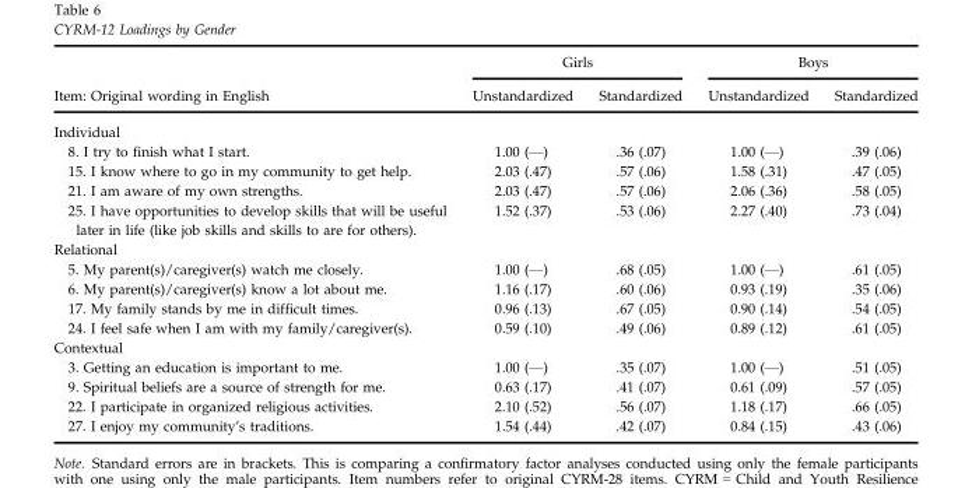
<table><thead><tr><td rowspan="2">Item: Original wording in English</td><td colspan="2">Girls</td><td colspan="2">Boys</td></tr><tr><td>Unstandardized</td><td>Standardized</td><td>Unstandardized</td><td>Standardized</td></tr></thead><tbody><tr><td colspan="5">Individual</td></tr><tr><td>8. I try to finish what I start.</td><td>1.00 (—)</td><td>.36 (.07)</td><td>1.00 (—)</td><td>.39 (.06)</td></tr><tr><td>15. I know where to go in my community to get help.</td><td>2.03 (.47)</td><td>.57 (.06)</td><td>1.58 (.31)</td><td>.47 (.05)</td></tr><tr><td>21. I am aware of my own strengths.</td><td>2.03 (.47)</td><td>.57 (.06)</td><td>2.06 (.36)</td><td>.58 (.05)</td></tr><tr><td>25. I have opportunities to develop skills that will be useful later in life (like job skills and skills to are for others).</td><td>1.52 (.37)</td><td>.53 (.06)</td><td>2.27 (.40)</td><td>.73 (.04)</td></tr><tr><td colspan="5">Relational</td></tr><tr><td>5. My parent(s)/caregiver(s) watch me closely.</td><td>1.00 (—)</td><td>.68 (.05)</td><td>1.00 (—)</td><td>.61 (.05)</td></tr><tr><td>6. My parent(s)/caregiver(s) know a lot about me.</td><td>1.16 (.17)</td><td>.60 (.06)</td><td>0.93 (.19)</td><td>.35 (.06)</td></tr><tr><td>17. My family stands by me in difficult times.</td><td>0.96 (.13)</td><td>.67 (.05)</td><td>0.90 (.14)</td><td>.54 (.05)</td></tr><tr><td>24. I feel safe when I am with my family/caregiver(s).</td><td>0.59 (.10)</td><td>.49 (.06)</td><td>0.89 (.12)</td><td>.61 (.05)</td></tr><tr><td colspan="5">Contextual</td></tr><tr><td>3. Getting an education is important to me.</td><td>1.00 (—)</td><td>.35 (.07)</td><td>1.00 (—)</td><td>.51 (.05)</td></tr><tr><td>9. Spiritual beliefs are a source of strength for me.</td><td>0.63 (.17)</td><td>.41 (.07)</td><td>0.61 (.09)</td><td>.57 (.05)</td></tr><tr><td>22. I participate in organized religious activities.</td><td>2.10 (.52)</td><td>.56 (.07)</td><td>1.18 (.17)</td><td>.66 (.05)</td></tr><tr><td>27. I enjoy my community’s traditions.</td><td>1.54 (.44)</td><td>.42 (.07)</td><td>0.84 (.15)</td><td>.43 (.06)</td></tr></tbody></table>